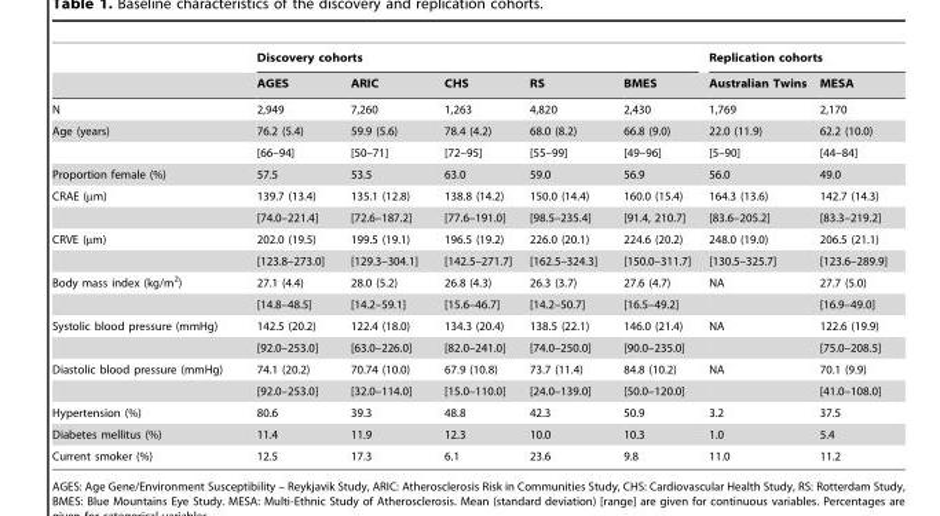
<table><thead><tr><td rowspan="2"></td><td colspan="5">Discovery cohorts</td><td colspan="2">Replication cohorts</td></tr><tr><td>AGES</td><td>ARIC</td><td>CHS</td><td>RS</td><td>BMES</td><td>Australian Twins</td><td>MESA</td></tr></thead><tbody><tr><td>N</td><td>2,949</td><td>7,260</td><td>1,263</td><td>4,820</td><td>2,430</td><td>1,769</td><td>2,170</td></tr><tr><td rowspan="2">Age (years)</td><td>76.2 (5.4)</td><td>59.9 (5.6)</td><td>78.4 (4.2)</td><td>68.0 (8.2)</td><td>66.8 (9.0)</td><td>22.0 (11.9)</td><td>62.2 (10.0)</td></tr><tr><td>[66–94]</td><td>[50–71]</td><td>[72–95]</td><td>[55–99]</td><td>[49–96]</td><td>[5–90]</td><td>[44–84]</td></tr><tr><td>Proportion female (%)</td><td>57.5</td><td>53.5</td><td>63.0</td><td>59.0</td><td>56.9</td><td>56.0</td><td>49.0</td></tr><tr><td rowspan="2">CRAE (µm)</td><td>139.7 (13.4)</td><td>135.1 (12.8)</td><td>138.8 (14.2)</td><td>150.0 (14.4)</td><td>160.0 (15.4)</td><td>164.3 (13.6)</td><td>142.7 (14.3)</td></tr><tr><td>[74.0–221.4]</td><td>[72.6–187.2]</td><td>[77.6–191.0]</td><td>[98.5–235.4]</td><td>[91.4, 210.7]</td><td>[83.6–205.2]</td><td>[83.3–219.2]</td></tr><tr><td rowspan="2">CRVE (µm)</td><td>202.0 (19.5)</td><td>199.5 (19.1)</td><td>196.5 (19.2)</td><td>226.0 (20.1)</td><td>224.6 (20.2)</td><td>248.0 (19.0)</td><td>206.5 (21.1)</td></tr><tr><td>[123.8–273.0]</td><td>[129.3–304.1]</td><td>[142.5–271.7]</td><td>[162.5–324.3]</td><td>[150.0–311.7]</td><td>[130.5–325.7]</td><td>[123.6–289.9]</td></tr><tr><td rowspan="2">Body mass index (kg/m<sup>2</sup>)</td><td>27.1 (4.4)</td><td>28.0 (5.2)</td><td>26.8 (4.3)</td><td>26.3 (3.7)</td><td>27.6 (4.7)</td><td>NA</td><td>27.7 (5.0)</td></tr><tr><td>[14.8–48.5]</td><td>[14.2–59.1]</td><td>[15.6–46.7]</td><td>[14.2–50.7]</td><td>[16.5–49.2]</td><td></td><td>[16.9–49.0]</td></tr><tr><td rowspan="2">Systolic blood pressure (mmHg)</td><td>142.5 (20.2)</td><td>122.4 (18.0)</td><td>134.3 (20.4)</td><td>138.5 (22.1)</td><td>146.0 (21.4)</td><td>NA</td><td>122.6 (19.9)</td></tr><tr><td>[92.0–253.0]</td><td>[63.0–226.0]</td><td>[82.0–241.0]</td><td>[74.0–250.0]</td><td>[90.0–235.0]</td><td></td><td>[75.0–208.5]</td></tr><tr><td rowspan="2">Diastolic blood pressure (mmHg)</td><td>74.1 (20.2)</td><td>70.74 (10.0)</td><td>67.9 (10.8)</td><td>73.7 (11.4)</td><td>84.8 (10.2)</td><td>NA</td><td>70.1 (9.9)</td></tr><tr><td>[92.0–253.0]</td><td>[32.0–114.0]</td><td>[15.0–110.0]</td><td>[24.0–139.0]</td><td>[50.0–120.0]</td><td></td><td>[41.0–108.0]</td></tr><tr><td>Hypertension (%)</td><td>80.6</td><td>39.3</td><td>48.8</td><td>42.3</td><td>50.9</td><td>3.2</td><td>37.5</td></tr><tr><td>Diabetes mellitus (%)</td><td>11.4</td><td>11.9</td><td>12.3</td><td>10.0</td><td>10.3</td><td>1.0</td><td>5.4</td></tr><tr><td>Current smoker (%)</td><td>12.5</td><td>17.3</td><td>6.1</td><td>23.6</td><td>9.8</td><td>11.0</td><td>11.2</td></tr></tbody></table>